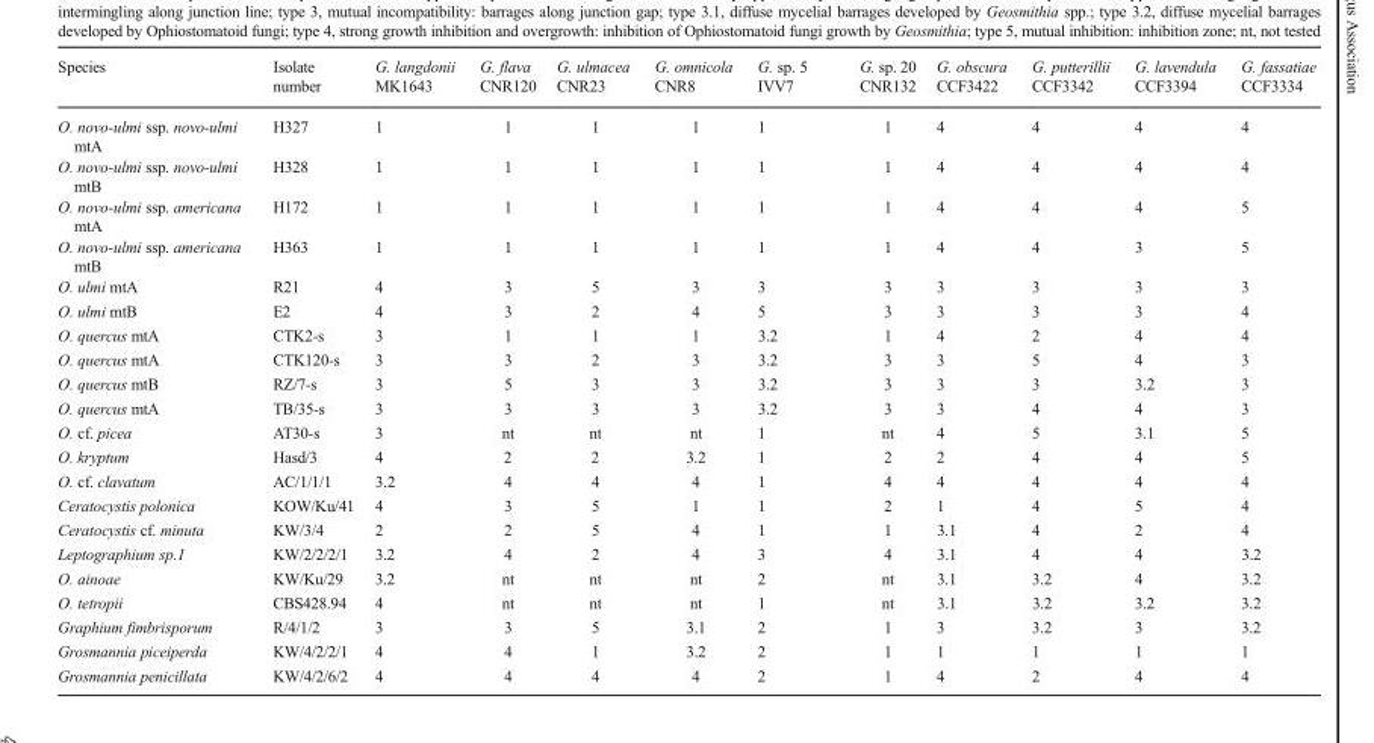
<table><thead><tr><td>Species</td><td>Isolate number</td><td>G. langdonii MK1643</td><td>G. flava CNR120</td><td>G. ulmacea CNR23</td><td>G. omnicola CNR8</td><td>G. sp. 5 IVV7</td><td>G. sp. 20 CNR132</td><td>G. obscura CCF3422</td><td>G. putterillii CCF3342</td><td>G. lavendula CCF3394</td><td>G. fassatiae CCF3334</td></tr></thead><tbody><tr><td>O. novo-ulmi ssp. novo-ulmi mtA</td><td>H327</td><td>1</td><td>1</td><td>1</td><td>1</td><td>1</td><td>1</td><td>4</td><td>4</td><td>4</td><td>4</td></tr><tr><td>O. novo-ulmi ssp. novo-ulmi mtB</td><td>H328</td><td>1</td><td>1</td><td>1</td><td>1</td><td>1</td><td>1</td><td>4</td><td>4</td><td>4</td><td>4</td></tr><tr><td>O. novo-ulmi ssp. americana mtA</td><td>H172</td><td>1</td><td>1</td><td>1</td><td>1</td><td>1</td><td>1</td><td>4</td><td>4</td><td>4</td><td>5</td></tr><tr><td>O. novo-ulmi ssp. americana mtB</td><td>H363</td><td>1</td><td>1</td><td>1</td><td>1</td><td>1</td><td>1</td><td>4</td><td>4</td><td>3</td><td>5</td></tr><tr><td>O. ulmi mtA</td><td>R21</td><td>4</td><td>3</td><td>5</td><td>3</td><td>3</td><td>3</td><td>3</td><td>3</td><td>3</td><td>3</td></tr><tr><td>O. ulmi mtB</td><td>E2</td><td>4</td><td>3</td><td>2</td><td>4</td><td>5</td><td>3</td><td>3</td><td>3</td><td>3</td><td>4</td></tr><tr><td>O. quercus mtA</td><td>CTK2-s</td><td>3</td><td>1</td><td>1</td><td>1</td><td>3.2</td><td>1</td><td>4</td><td>2</td><td>4</td><td>4</td></tr><tr><td>O. quercus mtA</td><td>CTK120-s</td><td>3</td><td>3</td><td>2</td><td>3</td><td>3.2</td><td>3</td><td>3</td><td>5</td><td>4</td><td>3</td></tr><tr><td>O. quercus mtB</td><td>RZ/7-s</td><td>3</td><td>5</td><td>3</td><td>3</td><td>3.2</td><td>3</td><td>3</td><td>3</td><td>3.2</td><td>3</td></tr><tr><td>O. quercus mtA</td><td>TB/35-s</td><td>3</td><td>3</td><td>3</td><td>3</td><td>3.2</td><td>3</td><td>3</td><td>4</td><td>4</td><td>3</td></tr><tr><td>O. cf. picea</td><td>AT30-s</td><td>3</td><td>nt</td><td>nt</td><td>nt</td><td>1</td><td>nt</td><td>4</td><td>5</td><td>3.1</td><td>5</td></tr><tr><td>O. kryptum</td><td>Hasd/3</td><td>4</td><td>2</td><td>2</td><td>3.2</td><td>1</td><td>2</td><td>2</td><td>4</td><td>4</td><td>5</td></tr><tr><td>O. cf. clavatum</td><td>AC/1/1/1</td><td>3.2</td><td>4</td><td>4</td><td>4</td><td>1</td><td>4</td><td>4</td><td>4</td><td>4</td><td>4</td></tr><tr><td>Ceratocystis polonica</td><td>KOW/Ku/41</td><td>4</td><td>3</td><td>5</td><td>1</td><td>1</td><td>2</td><td>1</td><td>4</td><td>5</td><td>4</td></tr><tr><td>Ceratocystis cf. minuta</td><td>KW/3/4</td><td>2</td><td>2</td><td>5</td><td>4</td><td>1</td><td>1</td><td>3.1</td><td>4</td><td>2</td><td>4</td></tr><tr><td>Leptographium sp.1</td><td>KW/2/2/2/1</td><td>3.2</td><td>4</td><td>2</td><td>4</td><td>3</td><td>4</td><td>3.1</td><td>4</td><td>4</td><td>3.2</td></tr><tr><td>O. ainoae</td><td>KW/Ku/29</td><td>3.2</td><td>nt</td><td>nt</td><td>nt</td><td>2</td><td>nt</td><td>3.1</td><td>3.2</td><td>4</td><td>3.2</td></tr><tr><td>O. tetropii</td><td>CBS428.94</td><td>4</td><td>nt</td><td>nt</td><td>nt</td><td>1</td><td>nt</td><td>3.1</td><td>3.2</td><td>3.2</td><td>3.2</td></tr><tr><td>Graphium fimbrisporum</td><td>R/4/1/2</td><td>3</td><td>3</td><td>5</td><td>3.1</td><td>2</td><td>1</td><td>3</td><td>3.2</td><td>3</td><td>3.2</td></tr><tr><td>Grosmannia piceiperda</td><td>KW/4/2/2/1</td><td>4</td><td>4</td><td>1</td><td>3.2</td><td>2</td><td>1</td><td>1</td><td>1</td><td>1</td><td>1</td></tr><tr><td>Grosmannia penicillata</td><td>KW/4/2/6/2</td><td>4</td><td>4</td><td>4</td><td>4</td><td>2</td><td>1</td><td>4</td><td>2</td><td>4</td><td>4</td></tr></tbody></table>